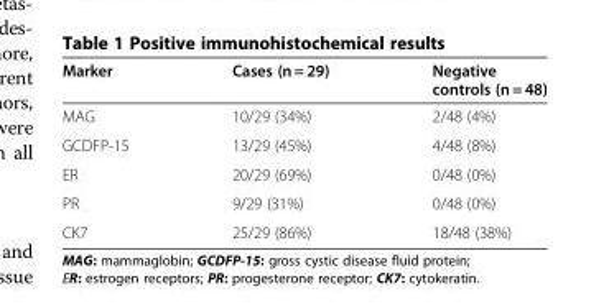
<table><thead><tr><td>Marker</td><td>Cases (n = 29)</td><td>Negative controls (n = 48)</td></tr></thead><tbody><tr><td>MAG</td><td>10/29 (34%)</td><td>2/48 (4%)</td></tr><tr><td>GCDFP-15</td><td>13/29 (45%)</td><td>4/48 (8%)</td></tr><tr><td>ER</td><td>20/29 (69%)</td><td>0/48 (0%)</td></tr><tr><td>PR</td><td>9/29 (31%)</td><td>0/48 (0%)</td></tr><tr><td>CK7</td><td>25/29 (86%)</td><td>18/48 (38%)</td></tr></tbody></table>